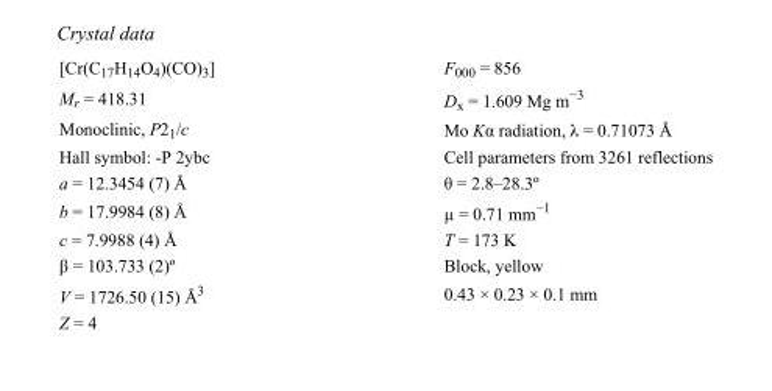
<table><tbody><tr><td>[Cr(C<sub>17</sub>H<sub>14</sub>O<sub>4</sub>)(CO)<sub>3</sub>]</td><td>F000 = 856</td></tr><tr><td>M<sub>r</sub> = 418.31</td><td>D<sub>x</sub> = 1.609 Mg m<sup>−3</sup></td></tr><tr><td>Monoclinic, P2<sub>1</sub>/c</td><td>Mo Kα radiation, λ = 0.71073 Å</td></tr><tr><td>Hall symbol: -P 2ybc</td><td>Cell parameters from 3261 reflections</td></tr><tr><td>a = 12.3454 (7) Å</td><td>θ = 2.8–28.3º</td></tr><tr><td>b = 17.9984 (8) Å</td><td>µ = 0.71 mm<sup>−1</sup></td></tr><tr><td>c = 7.9988 (4) Å</td><td>T = 173 K</td></tr><tr><td>β = 103.733 (2)º</td><td>Block, yellow</td></tr><tr><td>V = 1726.50 (15) Å<sup>3</sup></td><td>0.43 × 0.23 × 0.1 mm</td></tr><tr><td>Z = 4</td><td></td></tr></tbody></table>